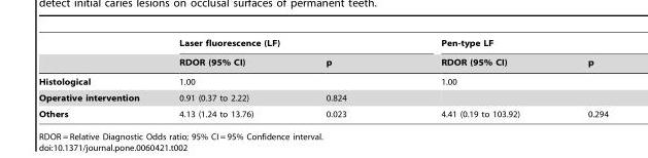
<table><thead><tr><td rowspan="2"></td><td colspan="2">Laser fluorescence (LF)</td><td colspan="2">Pen-type LF</td></tr><tr><td>RDOR (95% CI)</td><td>p</td><td>RDOR (95% CI)</td><td>p</td></tr></thead><tbody><tr><td>Histological</td><td>1.00</td><td></td><td>1.00</td><td></td></tr><tr><td>Operative intervention</td><td>0.91 (0.37 to 2.22)</td><td>0.824</td><td></td><td></td></tr><tr><td>Others</td><td>4.13 (1.24 to 13.76)</td><td>0.023</td><td>4.41 (0.19 to 103.92)</td><td>0.294</td></tr></tbody></table>